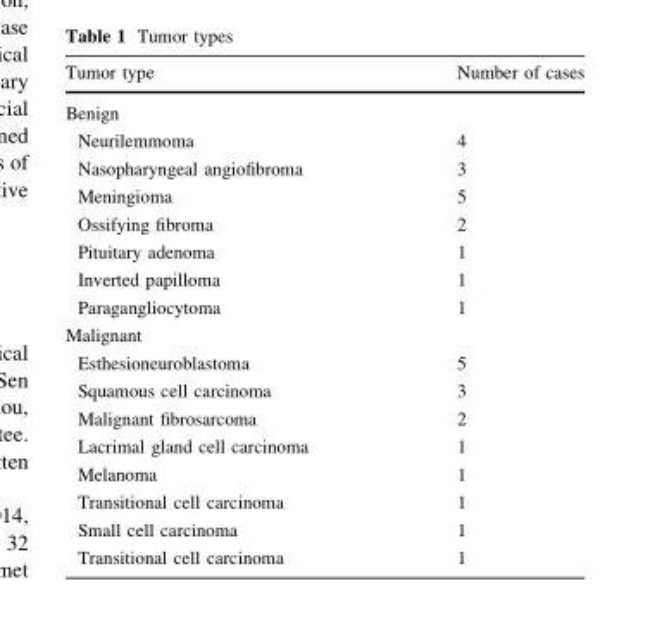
<table><thead><tr><td>Tumor type</td><td>Number of cases</td></tr></thead><tbody><tr><td colspan="2">Benign</td></tr><tr><td>Neurilemmoma</td><td>4</td></tr><tr><td>Nasopharyngeal angiofibroma</td><td>3</td></tr><tr><td>Meningioma</td><td>5</td></tr><tr><td>Ossifying fibroma</td><td>2</td></tr><tr><td>Pituitary adenoma</td><td>1</td></tr><tr><td>Inverted papilloma</td><td>1</td></tr><tr><td>Paragangliocytoma</td><td>1</td></tr><tr><td colspan="2">Malignant</td></tr><tr><td>Esthesioneuroblastoma</td><td>5</td></tr><tr><td>Squamous cell carcinoma</td><td>3</td></tr><tr><td>Malignant fibrosarcoma</td><td>2</td></tr><tr><td>Lacrimal gland cell carcinoma</td><td>1</td></tr><tr><td>Melanoma</td><td>1</td></tr><tr><td>Transitional cell carcinoma</td><td>1</td></tr><tr><td>Small cell carcinoma</td><td>1</td></tr><tr><td>Transitional cell carcinoma</td><td>1</td></tr></tbody></table>